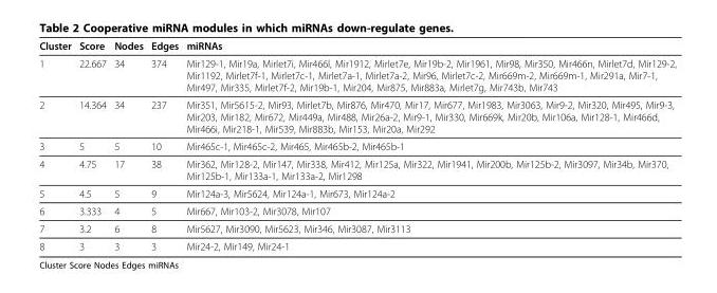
<table><thead><tr><td>Cluster</td><td>Score</td><td>Nodes</td><td>Edges</td><td>miRNAs</td></tr></thead><tbody><tr><td>1</td><td>22.667</td><td>34</td><td>374</td><td>Mir129-1, Mir19a, Mirlet7i, Mir466l, Mir1912, Mirlet7e, Mir19b-2, Mir1961, Mir98, Mir350, Mir466n, Mirlet7d, Mir129-2, Mir1192, Mirlet7f-1, Mirlet7c-1, Mirlet7a-1, Mirlet7a-2, Mir96, Mirlet7c-2, Mir669m-2, Mir669m-1, Mir291a, Mir7-1, Mir497, Mir335, Mirlet7f-2, Mir19b-1, Mir204, Mir875, Mir883a, Mirlet7g, Mir743b, Mir743</td></tr><tr><td>2</td><td>14.364</td><td>34</td><td>237</td><td>Mir351, Mir5615-2, Mir93, Mirlet7b, Mir876, Mir470, Mir17, Mir677, Mir1983, Mir3063, Mir9-2, Mir320, Mir495, Mir9-3, Mir203, Mir182, Mir672, Mir449a, Mir488, Mir26a-2, Mir9-1, Mir330, Mir669k, Mir20b, Mir106a, Mir128-1, Mir466d, Mir466i, Mir218-1, Mir539, Mir883b, Mir153, Mir20a, Mir292</td></tr><tr><td>3</td><td>5</td><td>5</td><td>10</td><td>Mir465c-1, Mir465c-2, Mir465, Mir465b-2, Mir465b-1</td></tr><tr><td>4</td><td>4.75</td><td>17</td><td>38</td><td>Mir362, Mir128-2, Mir147, Mir338, Mir412, Mir125a, Mir322, Mir1941, Mir200b, Mir125b-2, Mir3097, Mir34b, Mir370, Mir125b-1, Mir133a-1, Mir133a-2, Mir1298</td></tr><tr><td>5</td><td>4.5</td><td>5</td><td>9</td><td>Mir124a-3, Mir5624, Mir124a-1, Mir673, Mir124a-2</td></tr><tr><td>6</td><td>3.333</td><td>4</td><td>5</td><td>Mir667, Mir103-2, Mir3078, Mir107</td></tr><tr><td>7</td><td>3.2</td><td>6</td><td>8</td><td>Mir5627, Mir3090, Mir5623, Mir346, Mir3087, Mir3113</td></tr><tr><td>8</td><td>3</td><td>3</td><td>3</td><td>Mir24-2, Mir149, Mir24-1</td></tr></tbody></table>